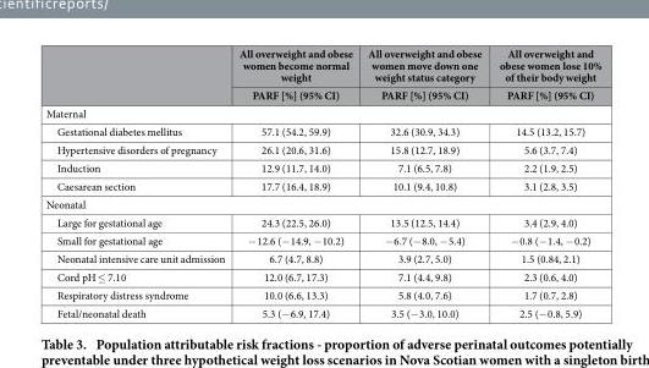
<table><thead><tr><td rowspan="2"></td><td rowspan="2">All overweight and obese women become normal weight PARF [%] (95% CI)</td><td rowspan="2">All overweight and obese women move down one weight status category PARF [%] (95% CI)</td><td rowspan="2">All overweight and obese women lose 10% of their body weight PARF [%] (95% CI)</td></tr><tr></tr></thead><tbody><tr><td colspan="4">Maternal</td></tr><tr><td>Gestational diabetes mellitus</td><td>57.1 (54.2, 59.9)</td><td>32.6 (30.9, 34.3)</td><td>14.5 (13.2, 15.7)</td></tr><tr><td>Hypertensive disorders of pregnancy</td><td>26.1 (20.6, 31.6)</td><td>15.8 (12.7, 18.9)</td><td>5.6 (3.7, 7.4)</td></tr><tr><td>Induction</td><td>12.9 (11.7, 14.0)</td><td>7.1 (6.5, 7.8)</td><td>2.2 (1.9, 2.5)</td></tr><tr><td>Caesarean section</td><td>17.7 (16.4, 18.9)</td><td>10.1 (9.4, 10.8)</td><td>3.1 (2.8, 3.5)</td></tr><tr><td colspan="4">Neonatal</td></tr><tr><td>Large for gestational age</td><td>24.3 (22.5, 26.0)</td><td>13.5 (12.5, 14.4)</td><td>3.4 (2.9, 4.0)</td></tr><tr><td>Small for gestational age</td><td>− 12.6 (− 14.9, − 10.2)</td><td>− 6.7 (− 8.0, − 5.4)</td><td>− 0.8 (− 1.4, − 0.2)</td></tr><tr><td>Neonatal intensive care unit admission</td><td>6.7 (4.7, 8.8)</td><td>3.9 (2.7, 5.0)</td><td>1.5 (0.84, 2.1)</td></tr><tr><td>Cord pH ≤ 7.10</td><td>12.0 (6.7, 17.3)</td><td>7.1 (4.4, 9.8)</td><td>2.3 (0.6, 4.0)</td></tr><tr><td>Respiratory distress syndrome</td><td>10.0 (6.6, 13.3)</td><td>5.8 (4.0, 7.6)</td><td>1.7 (0.7, 2.8)</td></tr><tr><td>Fetal/neonatal death</td><td>5.3 (− 6.9, 17.4)</td><td>3.5 (− 3.0, 10.0)</td><td>2.5 (− 0.8, 5.9)</td></tr></tbody></table>